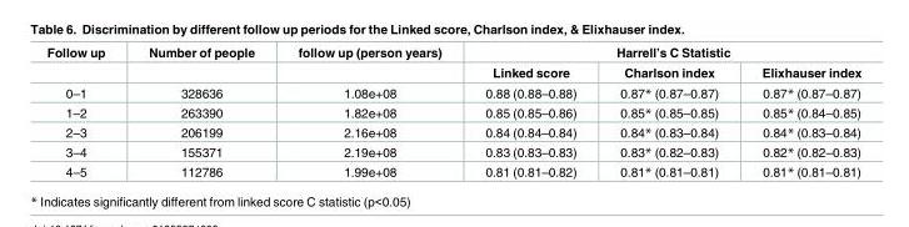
<table><thead><tr><td rowspan="2">Follow up</td><td rowspan="2">Number of people</td><td rowspan="2">follow up (person years)</td><td colspan="3">Harrell’s C Statistic</td></tr><tr><td>Linked score</td><td>Charlson index</td><td>Elixhauser index</td></tr></thead><tbody><tr><td>0–1</td><td>328636</td><td>1.08e+08</td><td>0.88 (0.88–0.88)</td><td>0.87* (0.87–0.87)</td><td>0.87* (0.87–0.87)</td></tr><tr><td>1–2</td><td>263390</td><td>1.82e+08</td><td>0.85 (0.85–0.86)</td><td>0.85* (0.85–0.85)</td><td>0.85* (0.84–0.85)</td></tr><tr><td>2–3</td><td>206199</td><td>2.16e+08</td><td>0.84 (0.84–0.84)</td><td>0.84* (0.83–0.84)</td><td>0.84* (0.83–0.84)</td></tr><tr><td>3–4</td><td>155371</td><td>2.19e+08</td><td>0.83 (0.83–0.83)</td><td>0.83* (0.82–0.83)</td><td>0.82* (0.82–0.83)</td></tr><tr><td>4–5</td><td>112786</td><td>1.99e+08</td><td>0.81 (0.81–0.82)</td><td>0.81* (0.81–0.81)</td><td>0.81* (0.81–0.81)</td></tr></tbody></table>